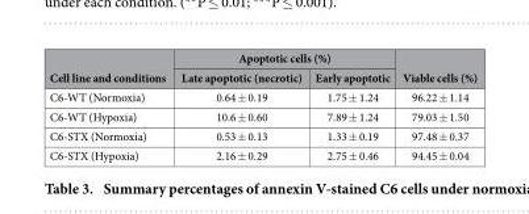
<table><thead><tr><td rowspan="2">Cell line and conditions</td><td colspan="2">Apoptotic cells (%)</td><td rowspan="2">Viable cells (%)</td></tr><tr><td>Late apoptotic (necrotic)</td><td>Early apoptotic</td></tr></thead><tbody><tr><td>C6-WT (Normoxia)</td><td>0.64 ± 0.19</td><td>1.75 ± 1.24</td><td>96.22 ± 1.14</td></tr><tr><td>C6-WT (Hypoxia)</td><td>10.6 ± 0.60</td><td>7.89 ± 1.24</td><td>79.03 ± 1.50</td></tr><tr><td>C6-STX (Normoxia)</td><td>0.53 ± 0.13</td><td>1.33 ± 0.19</td><td>97.48 ± 0.37</td></tr><tr><td>C6-STX (Hypoxia)</td><td>2.16 ± 0.29</td><td>2.75 ± 0.46</td><td>94.45 ± 0.04</td></tr></tbody></table>